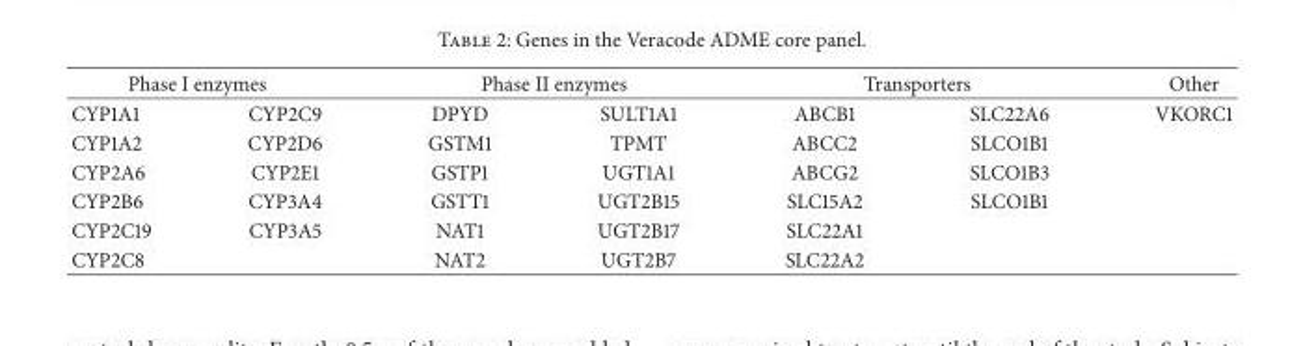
<table><thead><tr><td colspan="2">Phase I enzymes</td><td colspan="2">Phase II enzymes</td><td colspan="2">Transporters</td><td rowspan="2">Other VKORC1</td></tr><tr><td>CYP1A1</td><td>CYP2C9</td><td>DPYD</td><td>SULT1A1</td><td>ABCB1</td><td>SLC22A6</td></tr></thead><tbody><tr><td>CYP1A2</td><td>CYP2D6</td><td>GSTM1</td><td>TPMT</td><td>ABCC2</td><td>SLCO1B1</td><td></td></tr><tr><td>CYP2A6</td><td>CYP2E1</td><td>GSTP1</td><td>UGT1A1</td><td>ABCG2</td><td>SLCO1B3</td><td></td></tr><tr><td>CYP2B6</td><td>CYP3A4</td><td>GSTT1</td><td>UGT2B15</td><td>SLC15A2</td><td>SLCO1B1</td><td></td></tr><tr><td>CYP2C19</td><td>CYP3A5</td><td>NAT1</td><td>UGT2B17</td><td>SLC22A1</td><td></td><td></td></tr><tr><td>CYP2C8</td><td></td><td>NAT2</td><td>UGT2B7</td><td>SLC22A2</td><td></td><td></td></tr></tbody></table>